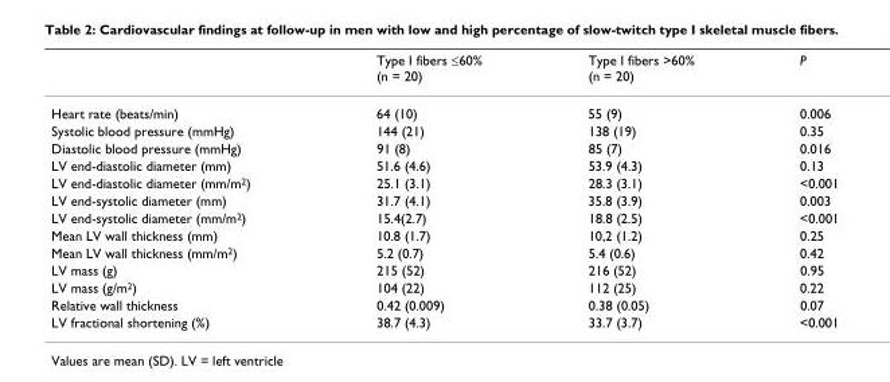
<table><thead><tr><td></td><td>Type I fibers ≤60% (n = 20)</td><td>Type I fibers &gt;60% (n = 20)</td><td>P</td></tr></thead><tbody><tr><td>Heart rate (beats/min)</td><td>64 (10)</td><td>55 (9)</td><td>0.006</td></tr><tr><td>Systolic blood pressure (mmHg)</td><td>144 (21)</td><td>138 (19)</td><td>0.35</td></tr><tr><td>Diastolic blood pressure (mmHg)</td><td>91 (8)</td><td>85 (7)</td><td>0.016</td></tr><tr><td>LV end-diastolic diameter (mm)</td><td>51.6 (4.6)</td><td>53.9 (4.3)</td><td>0.13</td></tr><tr><td>LV end-diastolic diameter (mm/m<sup>2</sup>)</td><td>25.1 (3.1)</td><td>28.3 (3.1)</td><td>&lt;0.001</td></tr><tr><td>LV end-systolic diameter (mm)</td><td>31.7 (4.1)</td><td>35.8 (3.9)</td><td>0.003</td></tr><tr><td>LV end-systolic diameter (mm/m<sup>2</sup>)</td><td>15.4(2.7)</td><td>18.8 (2.5)</td><td>&lt;0.001</td></tr><tr><td>Mean LV wall thickness (mm)</td><td>10.8 (1.7)</td><td>10,2 (1.2)</td><td>0.25</td></tr><tr><td>Mean LV wall thickness (mm/m<sup>2</sup>)</td><td>5.2 (0.7)</td><td>5.4 (0.6)</td><td>0.42</td></tr><tr><td>LV mass (g)</td><td>215 (52)</td><td>216 (52)</td><td>0.95</td></tr><tr><td>LV mass (g/m<sup>2</sup>)</td><td>104 (22)</td><td>112 (25)</td><td>0.22</td></tr><tr><td>Relative wall thickness</td><td>0.42 (0.009)</td><td>0.38 (0.05)</td><td>0.07</td></tr><tr><td>LV fractional shortening (%)</td><td>38.7 (4.3)</td><td>33.7 (3.7)</td><td>&lt;0.001</td></tr></tbody></table>